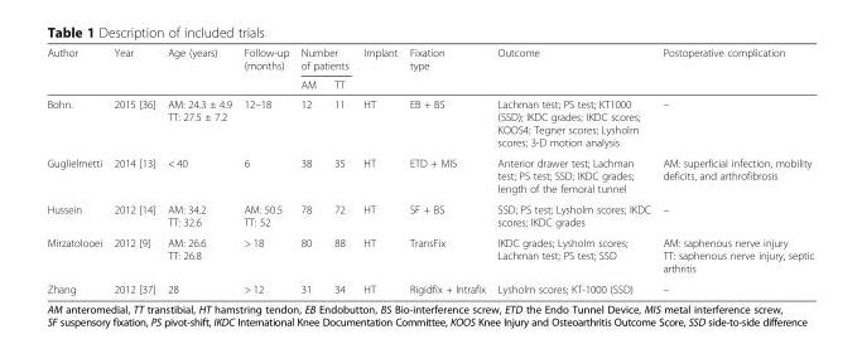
<table><thead><tr><td rowspan="2">Author</td><td rowspan="2">Year</td><td rowspan="2">Age (years)</td><td rowspan="2">Follow-up (months)</td><td colspan="2">Number of patients</td><td rowspan="2">Implant</td><td rowspan="2">Fixation type</td><td rowspan="2">Outcome</td><td rowspan="2">Postoperative complication</td></tr><tr><td>AM</td><td>TT</td></tr></thead><tbody><tr><td>Bohn.</td><td>2015 [36]</td><td>AM: 24.3 ± 4.9 TT: 27.5 ± 7.2</td><td>12–18</td><td>12</td><td>11</td><td>HT</td><td>EB + BS</td><td>Lachman test; PS test; KT1000 (SSD); IKDC grades; IKDC scores; KOOS4; Tegner scores; Lysholm scores; 3-D motion analysis</td><td>–</td></tr><tr><td>Guglielmetti</td><td>2014 [13]</td><td>&lt; 40</td><td>6</td><td>38</td><td>35</td><td>HT</td><td>ETD + MIS</td><td>Anterior drawer test; Lachman test; PS test; SSD; IKDC grades; length of the femoral tunnel</td><td>AM: superficial infection, mobility deficits, and arthrofibrosis</td></tr><tr><td>Hussein</td><td>2012 [14]</td><td>AM: 34.2 TT: 32.6</td><td>AM: 50.5 TT: 52</td><td>78</td><td>72</td><td>HT</td><td>SF + BS</td><td>SSD; PS test; Lysholm scores; IKDC scores; IKDC grades</td><td>–</td></tr><tr><td>Mirzatolooei</td><td>2012 [9]</td><td>AM: 26.6 TT: 26.8</td><td>&gt; 18</td><td>80</td><td>88</td><td>HT</td><td>TransFix</td><td>IKDC grades; Lysholm scores; Lachman test; PS test; SSD</td><td>AM: saphenous nerve injury TT: saphenous nerve injury, septic arthritis</td></tr><tr><td>Zhang</td><td>2012 [37]</td><td>28</td><td>&gt; 12</td><td>31</td><td>34</td><td>HT</td><td>Rigidfix + Intrafix</td><td>Lysholm scores; KT-1000 (SSD)</td><td>–</td></tr></tbody></table>